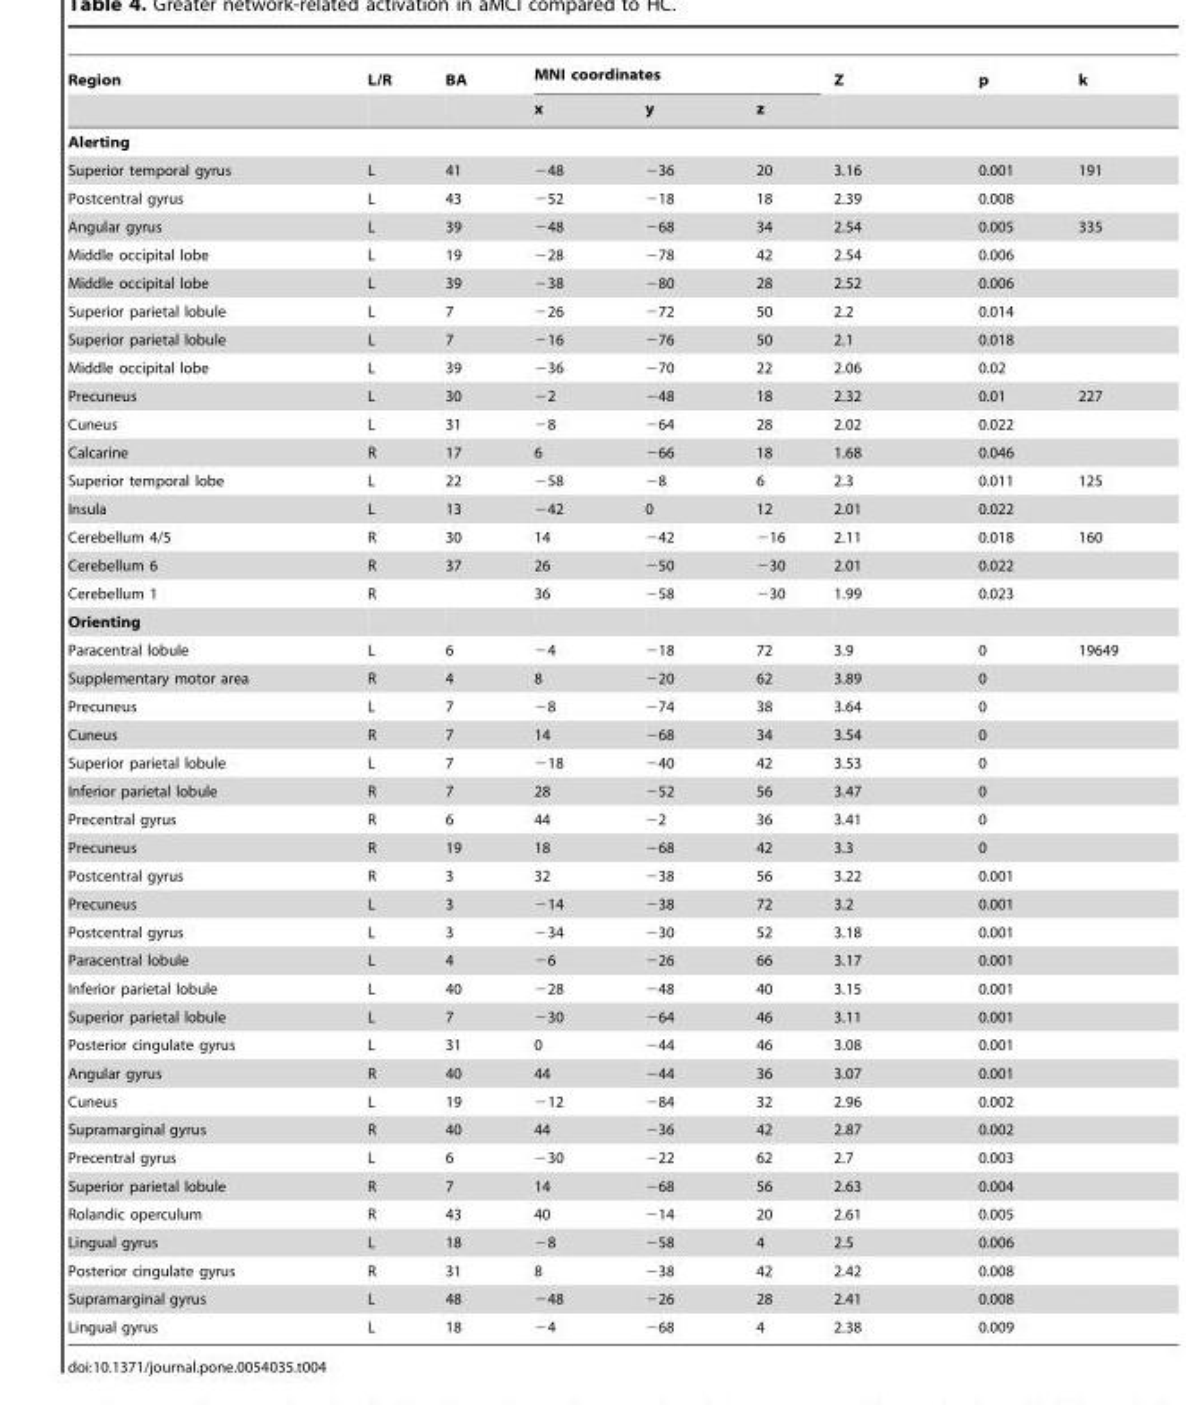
<table><thead><tr><td rowspan="2">Region</td><td rowspan="2">L/R</td><td rowspan="2">BA</td><td colspan="3">MNI coordinates</td><td rowspan="2">Z</td><td rowspan="2">p</td><td rowspan="2">k</td></tr><tr><td>x</td><td>y</td><td>z</td></tr></thead><tbody><tr><td colspan="9">Alerting</td></tr><tr><td>Superior temporal gyrus</td><td>L</td><td>41</td><td>−48</td><td>−36</td><td>20</td><td>3.16</td><td>0.001</td><td>191</td></tr><tr><td>Postcentral gyrus</td><td>L</td><td>43</td><td>−52</td><td>−18</td><td>18</td><td>2.39</td><td>0.008</td><td></td></tr><tr><td>Angular gyrus</td><td>L</td><td>39</td><td>−48</td><td>−68</td><td>34</td><td>2.54</td><td>0.005</td><td>335</td></tr><tr><td>Middle occipital lobe</td><td>L</td><td>19</td><td>−28</td><td>−78</td><td>42</td><td>2.54</td><td>0.006</td><td></td></tr><tr><td>Middle occipital lobe</td><td>L</td><td>39</td><td>−38</td><td>−80</td><td>28</td><td>2.52</td><td>0.006</td><td></td></tr><tr><td>Superior parietal lobule</td><td>L</td><td>7</td><td>−26</td><td>−72</td><td>50</td><td>2.2</td><td>0.014</td><td></td></tr><tr><td>Superior parietal lobule</td><td>L</td><td>7</td><td>−16</td><td>−76</td><td>50</td><td>2.1</td><td>0.018</td><td></td></tr><tr><td>Middle occipital lobe</td><td>L</td><td>39</td><td>−36</td><td>−70</td><td>22</td><td>2.06</td><td>0.02</td><td></td></tr><tr><td>Precuneus</td><td>L</td><td>30</td><td>−2</td><td>−48</td><td>18</td><td>2.32</td><td>0.01</td><td>227</td></tr><tr><td>Cuneus</td><td>L</td><td>31</td><td>−8</td><td>−64</td><td>28</td><td>2.02</td><td>0.022</td><td></td></tr><tr><td>Calcarine</td><td>R</td><td>17</td><td>6</td><td>−66</td><td>18</td><td>1.68</td><td>0.046</td><td></td></tr><tr><td>Superior temporal lobe</td><td>L</td><td>22</td><td>−58</td><td>−8</td><td>6</td><td>2.3</td><td>0.011</td><td>125</td></tr><tr><td>Insula</td><td>L</td><td>13</td><td>−42</td><td>0</td><td>12</td><td>2.01</td><td>0.022</td><td></td></tr><tr><td>Cerebellum 4/5</td><td>R</td><td>30</td><td>14</td><td>−42</td><td>−16</td><td>2.11</td><td>0.018</td><td>160</td></tr><tr><td>Cerebellum 6</td><td>R</td><td>37</td><td>26</td><td>−50</td><td>−30</td><td>2.01</td><td>0.022</td><td></td></tr><tr><td>Cerebellum 1</td><td>R</td><td></td><td>36</td><td>−58</td><td>−30</td><td>1.99</td><td>0.023</td><td></td></tr><tr><td colspan="9">Orienting</td></tr><tr><td>Paracentral lobule</td><td>L</td><td>6</td><td>−4</td><td>−18</td><td>72</td><td>3.9</td><td>0</td><td>19649</td></tr><tr><td>Supplementary motor area</td><td>R</td><td>4</td><td>8</td><td>−20</td><td>62</td><td>3.89</td><td>0</td><td></td></tr><tr><td>Precuneus</td><td>L</td><td>7</td><td>−8</td><td>−74</td><td>38</td><td>3.64</td><td>0</td><td></td></tr><tr><td>Cuneus</td><td>R</td><td>7</td><td>14</td><td>−68</td><td>34</td><td>3.54</td><td>0</td><td></td></tr><tr><td>Superior parietal lobule</td><td>L</td><td>7</td><td>−18</td><td>−40</td><td>42</td><td>3.53</td><td>0</td><td></td></tr><tr><td>Inferior parietal lobule</td><td>R</td><td>7</td><td>28</td><td>−52</td><td>56</td><td>3.47</td><td>0</td><td></td></tr><tr><td>Precentral gyrus</td><td>R</td><td>6</td><td>44</td><td>−2</td><td>36</td><td>3.41</td><td>0</td><td></td></tr><tr><td>Precuneus</td><td>R</td><td>19</td><td>18</td><td>−68</td><td>42</td><td>3.3</td><td>0</td><td></td></tr><tr><td>Postcentral gyrus</td><td>R</td><td>3</td><td>32</td><td>−38</td><td>56</td><td>3.22</td><td>0.001</td><td></td></tr><tr><td>Precuneus</td><td>L</td><td>3</td><td>−14</td><td>−38</td><td>72</td><td>3.2</td><td>0.001</td><td></td></tr><tr><td>Postcentral gyrus</td><td>L</td><td>3</td><td>−34</td><td>−30</td><td>52</td><td>3.18</td><td>0.001</td><td></td></tr><tr><td>Paracentral lobule</td><td>L</td><td>4</td><td>−6</td><td>−26</td><td>66</td><td>3.17</td><td>0.001</td><td></td></tr><tr><td>Inferior parietal lobule</td><td>L</td><td>40</td><td>−28</td><td>−48</td><td>40</td><td>3.15</td><td>0.001</td><td></td></tr><tr><td>Superior parietal lobule</td><td>L</td><td>7</td><td>−30</td><td>−64</td><td>46</td><td>3.11</td><td>0.001</td><td></td></tr><tr><td>Posterior cingulate gyrus</td><td>L</td><td>31</td><td>0</td><td>−44</td><td>46</td><td>3.08</td><td>0.001</td><td></td></tr><tr><td>Angular gyrus</td><td>R</td><td>40</td><td>44</td><td>−44</td><td>36</td><td>3.07</td><td>0.001</td><td></td></tr><tr><td>Cuneus</td><td>L</td><td>19</td><td>−12</td><td>−84</td><td>32</td><td>2.96</td><td>0.002</td><td></td></tr><tr><td>Supramarginal gyrus</td><td>R</td><td>40</td><td>44</td><td>−36</td><td>42</td><td>2.87</td><td>0.002</td><td></td></tr><tr><td>Precentral gyrus</td><td>L</td><td>6</td><td>−30</td><td>−22</td><td>62</td><td>2.7</td><td>0.003</td><td></td></tr><tr><td>Superior parietal lobule</td><td>R</td><td>7</td><td>14</td><td>−68</td><td>56</td><td>2.63</td><td>0.004</td><td></td></tr><tr><td>Rolandic operculum</td><td>R</td><td>43</td><td>40</td><td>−14</td><td>20</td><td>2.61</td><td>0.005</td><td></td></tr><tr><td>Lingual gyrus</td><td>L</td><td>18</td><td>−8</td><td>−58</td><td>4</td><td>2.5</td><td>0.006</td><td></td></tr><tr><td>Posterior cingulate gyrus</td><td>R</td><td>31</td><td>8</td><td>−38</td><td>42</td><td>2.42</td><td>0.008</td><td></td></tr><tr><td>Supramarginal gyrus</td><td>L</td><td>48</td><td>−48</td><td>−26</td><td>28</td><td>2.41</td><td>0.008</td><td></td></tr><tr><td>Lingual gyrus</td><td>L</td><td>18</td><td>−4</td><td>−68</td><td>4</td><td>2.38</td><td>0.009</td><td></td></tr></tbody></table>